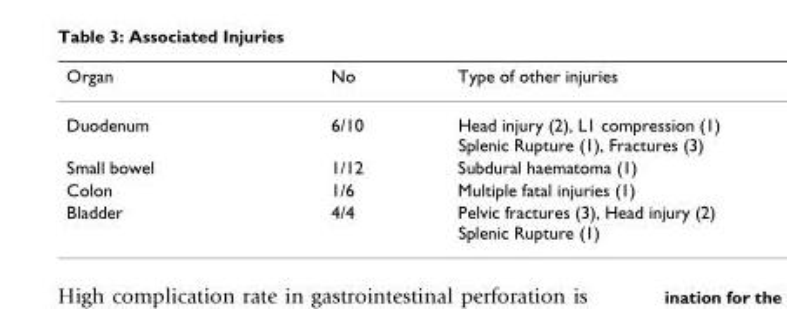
<table><thead><tr><td>Organ</td><td>No</td><td>Type of other injuries</td></tr></thead><tbody><tr><td>Duodenum</td><td>6/10</td><td>Head injury (2), L1 compression (1) Splenic Rupture (1), Fractures (3)</td></tr><tr><td>Small bowel</td><td>1/12</td><td>Subdural haematoma (1)</td></tr><tr><td>Colon</td><td>1/6</td><td>Multiple fatal injuries (1)</td></tr><tr><td>Bladder</td><td>4/4</td><td>Pelvic fractures (3), Head injury (2) Splenic Rupture (1)</td></tr></tbody></table>